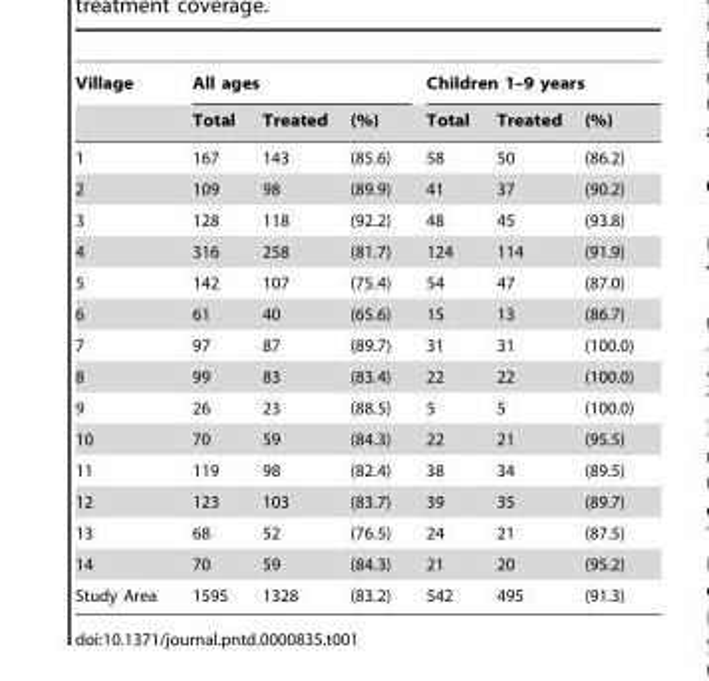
<table><thead><tr><td rowspan="2">Village</td><td colspan="3">All ages</td><td colspan="3">Children 1–9 years</td></tr><tr><td>Total</td><td>Treated</td><td>(%)</td><td>Total</td><td>Treated</td><td>(%)</td></tr></thead><tbody><tr><td>1</td><td>167</td><td>143</td><td>(85.6)</td><td>58</td><td>50</td><td>(86.2)</td></tr><tr><td>2</td><td>109</td><td>98</td><td>(89.9)</td><td>41</td><td>37</td><td>(90.2)</td></tr><tr><td>3</td><td>128</td><td>118</td><td>(92.2)</td><td>48</td><td>45</td><td>(93.8)</td></tr><tr><td>4</td><td>316</td><td>258</td><td>(81.7)</td><td>124</td><td>114</td><td>(91.9)</td></tr><tr><td>5</td><td>142</td><td>107</td><td>(75.4)</td><td>54</td><td>47</td><td>(87.0)</td></tr><tr><td>6</td><td>61</td><td>40</td><td>(65.6)</td><td>15</td><td>13</td><td>(86.7)</td></tr><tr><td>7</td><td>97</td><td>87</td><td>(89.7)</td><td>31</td><td>31</td><td>(100.0)</td></tr><tr><td>8</td><td>99</td><td>83</td><td>(83.4)</td><td>22</td><td>22</td><td>(100.0)</td></tr><tr><td>9</td><td>26</td><td>23</td><td>(88.5)</td><td>5</td><td>5</td><td>(100.0)</td></tr><tr><td>10</td><td>70</td><td>59</td><td>(84.3)</td><td>22</td><td>21</td><td>(95.5)</td></tr><tr><td>11</td><td>119</td><td>98</td><td>(82.4)</td><td>38</td><td>34</td><td>(89.5)</td></tr><tr><td>12</td><td>123</td><td>103</td><td>(83.7)</td><td>39</td><td>35</td><td>(89.7)</td></tr><tr><td>13</td><td>68</td><td>52</td><td>(76.5)</td><td>24</td><td>21</td><td>(87.5)</td></tr><tr><td>14</td><td>70</td><td>59</td><td>(84.3)</td><td>21</td><td>20</td><td>(95.2)</td></tr><tr><td>Study Area</td><td>1595</td><td>1328</td><td>(83.2)</td><td>542</td><td>495</td><td>(91.3)</td></tr></tbody></table>